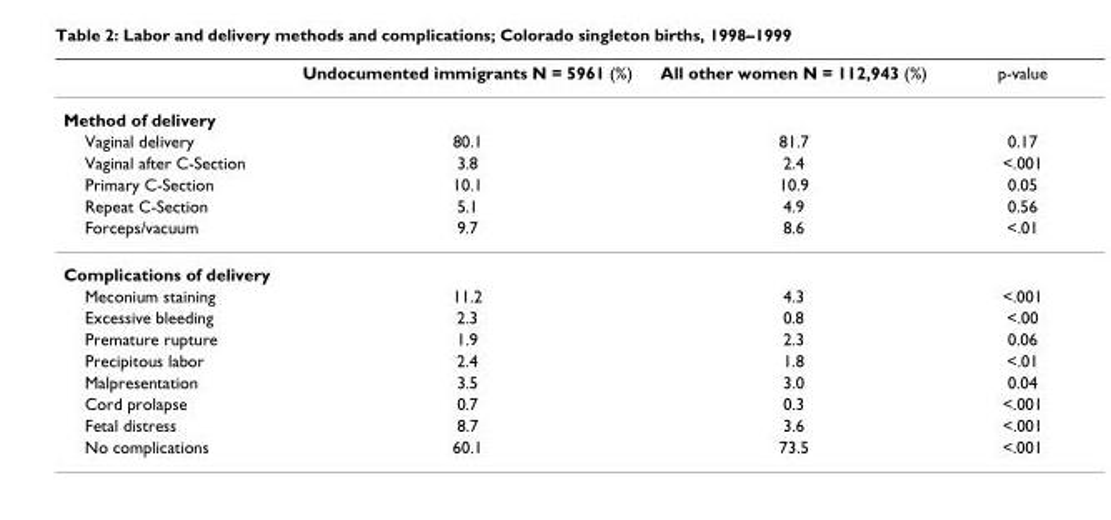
<table><thead><tr><td></td><td>Undocumented immigrants N = 5961 (%)</td><td>All other women N = 112,943 (%)</td><td>p-value</td></tr></thead><tbody><tr><td colspan="4">Method of delivery</td></tr><tr><td>Vaginal delivery</td><td>80.1</td><td>81.7</td><td>0.17</td></tr><tr><td>Vaginal after C-Section</td><td>3.8</td><td>2.4</td><td>&lt;.001</td></tr><tr><td>Primary C-Section</td><td>10.1</td><td>10.9</td><td>0.05</td></tr><tr><td>Repeat C-Section</td><td>5.1</td><td>4.9</td><td>0.56</td></tr><tr><td>Forceps/vacuum</td><td>9.7</td><td>8.6</td><td>&lt;.01</td></tr><tr><td colspan="4">Complications of delivery</td></tr><tr><td>Meconium staining</td><td>11.2</td><td>4.3</td><td>&lt;.001</td></tr><tr><td>Excessive bleeding</td><td>2.3</td><td>0.8</td><td>&lt;.00</td></tr><tr><td>Premature rupture</td><td>1.9</td><td>2.3</td><td>0.06</td></tr><tr><td>Precipitous labor</td><td>2.4</td><td>1.8</td><td>&lt;.01</td></tr><tr><td>Malpresentation</td><td>3.5</td><td>3.0</td><td>0.04</td></tr><tr><td>Cord prolapse</td><td>0.7</td><td>0.3</td><td>&lt;.001</td></tr><tr><td>Fetal distress</td><td>8.7</td><td>3.6</td><td>&lt;.001</td></tr><tr><td>No complications</td><td>60.1</td><td>73.5</td><td>&lt;.001</td></tr></tbody></table>